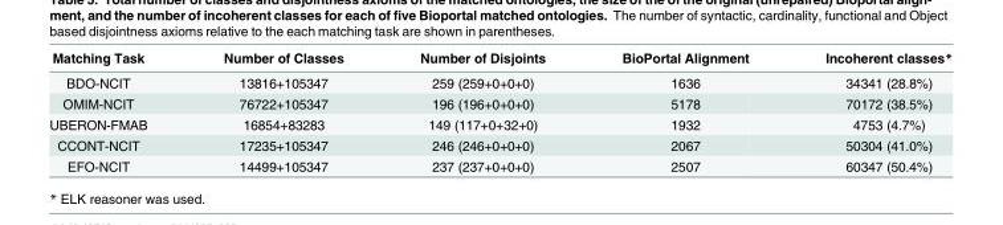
<table><thead><tr><td>Matching Task</td><td>Number of Classes</td><td>Number of Disjoints</td><td>BioPortal Alignment</td><td>Incoherent classes*</td></tr></thead><tbody><tr><td>BDO-NCIT</td><td>13816+105347</td><td>259 (259+0+0+0)</td><td>1636</td><td>34341 (28.8%)</td></tr><tr><td>OMIM-NCIT</td><td>76722+105347</td><td>196 (196+0+0+0)</td><td>5178</td><td>70172 (38.5%)</td></tr><tr><td>UBERON-FMAB</td><td>16854+83283</td><td>149 (117+0+32+0)</td><td>1932</td><td>4753 (4.7%)</td></tr><tr><td>CCONT-NCIT</td><td>17235+105347</td><td>246 (246+0+0+0)</td><td>2067</td><td>50304 (41.0%)</td></tr><tr><td>EFO-NCIT</td><td>14499+105347</td><td>237 (237+0+0+0)</td><td>2507</td><td>60347 (50.4%)</td></tr></tbody></table>